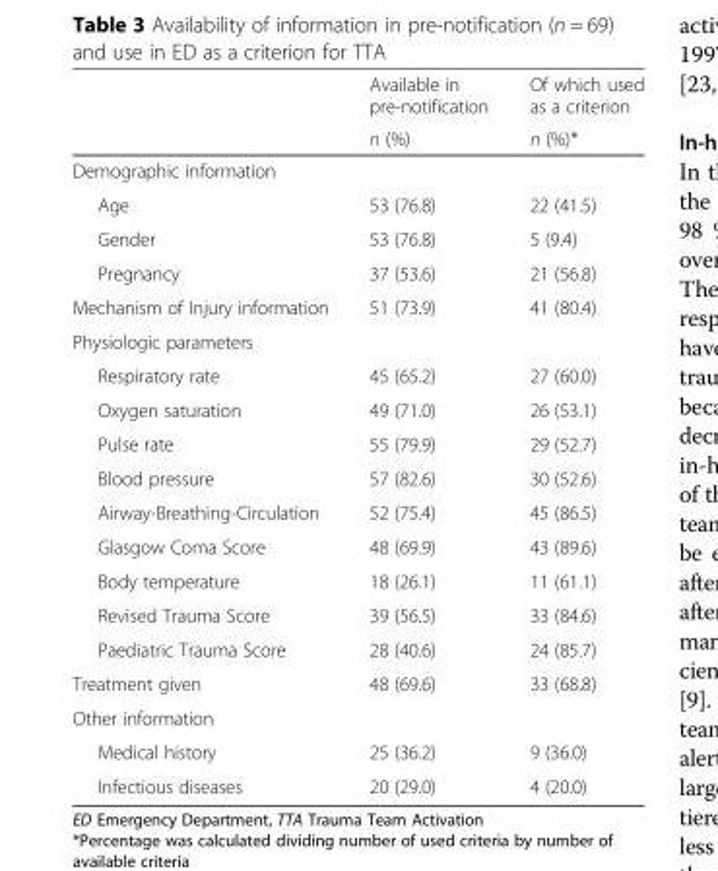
<table><thead><tr><td rowspan="2"></td><td rowspan="2">Available in pre-notification n (%)</td><td rowspan="2">Of which used as a criterion n (%)*</td></tr><tr></tr></thead><tbody><tr><td colspan="3">Demographic information</td></tr><tr><td>Age</td><td>53 (76.8)</td><td>22 (41.5)</td></tr><tr><td>Gender</td><td>53 (76.8)</td><td>5 (9.4)</td></tr><tr><td>Pregnancy</td><td>37 (53.6)</td><td>21 (56.8)</td></tr><tr><td>Mechanism of Injury information</td><td>51 (73.9)</td><td>41 (80.4)</td></tr><tr><td colspan="3">Physiologic parameters</td></tr><tr><td>Respiratory rate</td><td>45 (65.2)</td><td>27 (60.0)</td></tr><tr><td>Oxygen saturation</td><td>49 (71.0)</td><td>26 (53.1)</td></tr><tr><td>Pulse rate</td><td>55 (79.9)</td><td>29 (52.7)</td></tr><tr><td>Blood pressure</td><td>57 (82.6)</td><td>30 (52.6)</td></tr><tr><td>Airway-Breathing-Circulation</td><td>52 (75.4)</td><td>45 (86.5)</td></tr><tr><td>Glasgow Coma Score</td><td>48 (69.9)</td><td>43 (89.6)</td></tr><tr><td>Body temperature</td><td>18 (26.1)</td><td>11 (61.1)</td></tr><tr><td>Revised Trauma Score</td><td>39 (56.5)</td><td>33 (84.6)</td></tr><tr><td>Paediatric Trauma Score</td><td>28 (40.6)</td><td>24 (85.7)</td></tr><tr><td>Treatment given</td><td>48 (69.6)</td><td>33 (68.8)</td></tr><tr><td colspan="3">Other information</td></tr><tr><td>Medical history</td><td>25 (36.2)</td><td>9 (36.0)</td></tr><tr><td>Infectious diseases</td><td>20 (29.0)</td><td>4 (20.0)</td></tr></tbody></table>